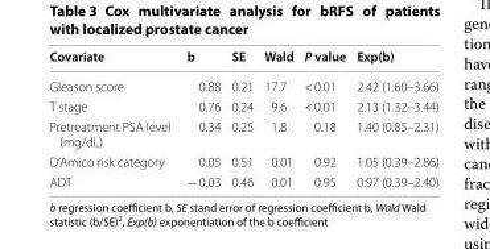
<table><thead><tr><td>Covariate</td><td>b</td><td>SE</td><td>Wald</td><td>P value</td><td>Exp(b)</td></tr></thead><tbody><tr><td>Gleason score</td><td>0.88</td><td>0.21</td><td>17.7</td><td>&lt; 0.01</td><td>2.42 (1.60–3.66)</td></tr><tr><td>T stage</td><td>0.76</td><td>0.24</td><td>9.6</td><td>&lt; 0.01</td><td>2.13 (1.32–3.44)</td></tr><tr><td>Pretreatment PSA level (mg/dL)</td><td>0.34</td><td>0.25</td><td>1.8</td><td>0.18</td><td>1.40 (0.85–2.31)</td></tr><tr><td>D’Amico risk category</td><td>0.05</td><td>0.51</td><td>0.01</td><td>0.92</td><td>1.05 (0.39–2.86)</td></tr><tr><td>ADT</td><td>− 0.03</td><td>0.46</td><td>0.01</td><td>0.95</td><td>0.97 (0.39–2.40)</td></tr></tbody></table>